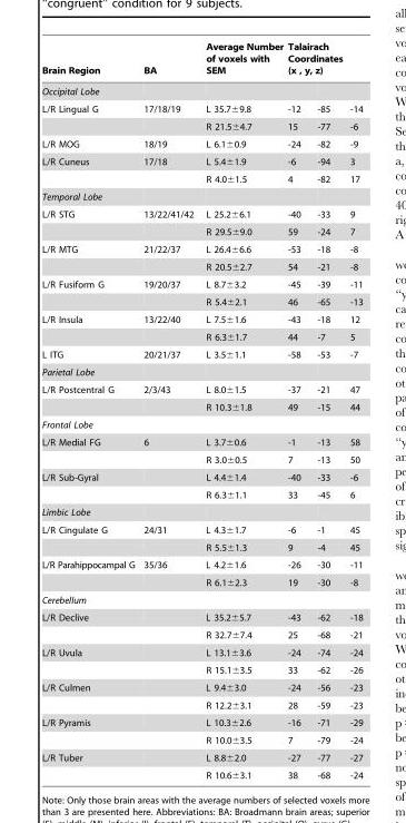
<table><thead><tr><td rowspan="2">Brain Region Occipital Lobe</td><td rowspan="2">BA</td><td rowspan="2">Average Number of voxels with SEM</td><td colspan="3">Talairach Coordinates (x , y, z)</td></tr><tr><td></td><td></td><td></td></tr></thead><tbody><tr><td rowspan="2">L/R Lingual G</td><td>17/18/19</td><td>L 35.7±9.8</td><td>-12</td><td>-85</td><td>-14</td></tr><tr><td></td><td>R 21.5±4.7</td><td>15</td><td>-77</td><td>-6</td></tr><tr><td>L/R MOG</td><td>18/19</td><td>L 6.1±0.9</td><td>-24</td><td>-82</td><td>-9</td></tr><tr><td rowspan="2">L/R Cuneus</td><td>17/18</td><td>L 5.4±1.9</td><td>-6</td><td>-94</td><td>3</td></tr><tr><td></td><td>R 4.0±1.5</td><td>4</td><td>-82</td><td>17</td></tr><tr><td colspan="6">Temporal Lobe</td></tr><tr><td rowspan="2">L/R STG</td><td>13/22/41/42</td><td>L 25.2±6.1</td><td>-40</td><td>-33</td><td>9</td></tr><tr><td></td><td>R 29.5±9.0</td><td>59</td><td>-24</td><td>7</td></tr><tr><td rowspan="2">L/R MTG</td><td>21/22/37</td><td>L 26.4±6.6</td><td>-53</td><td>-18</td><td>-8</td></tr><tr><td></td><td>R 20.5±2.7</td><td>54</td><td>-21</td><td>-8</td></tr><tr><td rowspan="2">L/R Fusiform G</td><td>19/20/37</td><td>L 8.7±3.2</td><td>-45</td><td>-39</td><td>-11</td></tr><tr><td></td><td>R 5.4±2.1</td><td>46</td><td>-65</td><td>-13</td></tr><tr><td rowspan="2">L/R Insula</td><td>13/22/40</td><td>L 7.5±1.6</td><td>-43</td><td>-18</td><td>12</td></tr><tr><td></td><td>R 6.3±1.7</td><td>44</td><td>-7</td><td>5</td></tr><tr><td>L ITG</td><td>20/21/37</td><td>L 3.5±1.1</td><td>-58</td><td>-53</td><td>-7</td></tr><tr><td colspan="6">Parietal Lobe</td></tr><tr><td rowspan="2">L/R Postcentral G</td><td>2/3/43</td><td>L 8.0±1.5</td><td>-37</td><td>-21</td><td>47</td></tr><tr><td></td><td>R 10.3±1.8</td><td>49</td><td>-15</td><td>44</td></tr><tr><td colspan="6">Frontal Lobe</td></tr><tr><td rowspan="2">L/R Medial FG</td><td>6</td><td>L 3.7±0.6</td><td>-1</td><td>-13</td><td>58</td></tr><tr><td></td><td>R 3.0±0.5</td><td>7</td><td>-13</td><td>50</td></tr><tr><td rowspan="2">L/R Sub-Gyral</td><td></td><td>L 4.4±1.4</td><td>-40</td><td>-33</td><td>-6</td></tr><tr><td></td><td>R 6.3±1.1</td><td>33</td><td>-45</td><td>6</td></tr><tr><td colspan="6">Limbic Lobe</td></tr><tr><td rowspan="2">L/R Cingulate G</td><td>24/31</td><td>L 4.3±1.7</td><td>-6</td><td>-1</td><td>45</td></tr><tr><td></td><td>R 5.5±1.3</td><td>9</td><td>-4</td><td>45</td></tr><tr><td rowspan="2">L/R Parahippocampal G</td><td>35/36</td><td>L 4.2±1.6</td><td>-26</td><td>-30</td><td>-11</td></tr><tr><td></td><td>R 6.1±2.3</td><td>19</td><td>-30</td><td>-8</td></tr><tr><td colspan="6">Cerebellum</td></tr><tr><td rowspan="2">L/R Declive</td><td></td><td>L 35.2±5.7</td><td>-43</td><td>-62</td><td>-18</td></tr><tr><td></td><td>R 32.7±7.4</td><td>25</td><td>-68</td><td>-21</td></tr><tr><td rowspan="2">L/R Uvula</td><td></td><td>L 13.1±3.6</td><td>-24</td><td>-74</td><td>-24</td></tr><tr><td></td><td>R 15.1±3.5</td><td>33</td><td>-62</td><td>-26</td></tr><tr><td rowspan="2">L/R Culmen</td><td></td><td>L 9.4±3.0</td><td>-24</td><td>-56</td><td>-23</td></tr><tr><td></td><td>R 12.2±3.1</td><td>28</td><td>-59</td><td>-23</td></tr><tr><td rowspan="2">L/R Pyramis</td><td></td><td>L 10.3±2.6</td><td>-16</td><td>-71</td><td>-29</td></tr><tr><td></td><td>R 10.0±3.5</td><td>7</td><td>-79</td><td>-24</td></tr><tr><td rowspan="2">L/R Tuber</td><td></td><td>L 8.8±2.0</td><td>-27</td><td>-77</td><td>-27</td></tr><tr><td></td><td>R 10.6±3.1</td><td>38</td><td>-68</td><td>-24</td></tr></tbody></table>